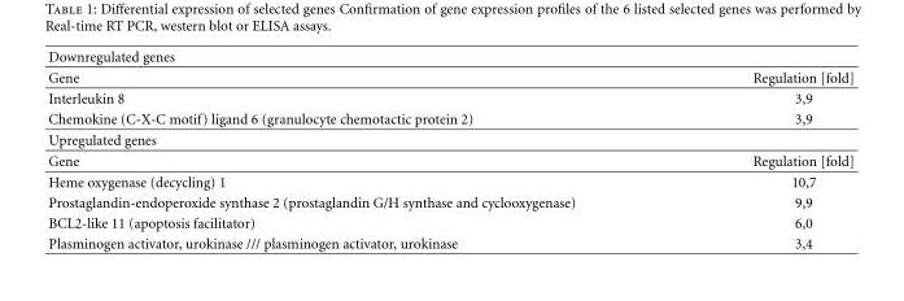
<table><thead><tr><td>Downregulated genes</td><td></td></tr></thead><tbody><tr><td>Gene</td><td>Regulation [fold]</td></tr><tr><td>Interleukin 8</td><td>3,9</td></tr><tr><td>Chemokine (C-X-C motif) ligand 6 (granulocyte chemotactic protein 2)</td><td>3,9</td></tr><tr><td colspan="2">Upregulated genes</td></tr><tr><td>Gene</td><td>Regulation [fold]</td></tr><tr><td>Heme oxygenase (decycling) 1</td><td>10,7</td></tr><tr><td>Prostaglandin-endoperoxide synthase 2 (prostaglandin G/H synthase and cyclooxygenase)</td><td>9,9</td></tr><tr><td>BCL2-like 11 (apoptosis facilitator)</td><td>6,0</td></tr><tr><td>Plasminogen activator, urokinase /// plasminogen activator, urokinase</td><td>3,4</td></tr></tbody></table>